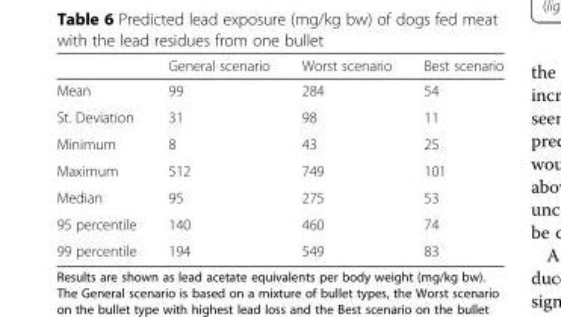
<table><thead><tr><td></td><td>General scenario</td><td>Worst scenario</td><td>Best scenario</td></tr></thead><tbody><tr><td>Mean</td><td>99</td><td>284</td><td>54</td></tr><tr><td>St. Deviation</td><td>31</td><td>98</td><td>11</td></tr><tr><td>Minimum</td><td>8</td><td>43</td><td>25</td></tr><tr><td>Maximum</td><td>512</td><td>749</td><td>101</td></tr><tr><td>Median</td><td>95</td><td>275</td><td>53</td></tr><tr><td>95 percentile</td><td>140</td><td>460</td><td>74</td></tr><tr><td>99 percentile</td><td>194</td><td>549</td><td>83</td></tr></tbody></table>